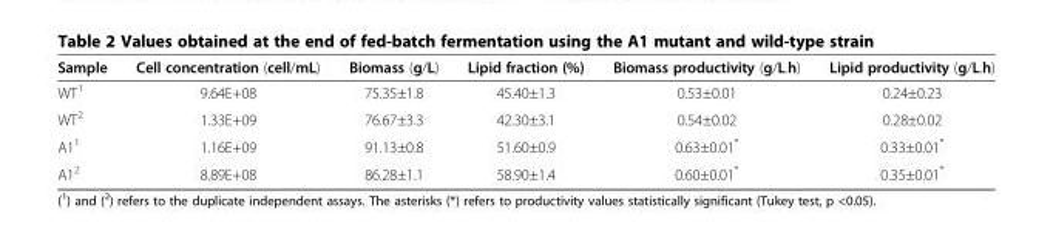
<table><thead><tr><td>Sample</td><td>Cell concentration (cell/mL)</td><td>Biomass (g/L)</td><td>Lipid fraction (%)</td><td>Biomass productivity (g/L.h)</td><td>Lipid productivity (g/L.h)</td></tr></thead><tbody><tr><td>WT<sup>1</sup></td><td>9.64E+08</td><td>75.35±1.8</td><td>45.40±1.3</td><td>0.53±0.01</td><td>0.24±0.23</td></tr><tr><td>WT<sup>2</sup></td><td>1.33E+09</td><td>76.67±3.3</td><td>42.30±3.1</td><td>0.54±0.02</td><td>0.28±0.02</td></tr><tr><td>A1<sup>1</sup></td><td>1.16E+09</td><td>91.13±0.8</td><td>51.60±0.9</td><td>0.63±0.01*</td><td>0.33±0.01*</td></tr><tr><td>A1<sup>2</sup></td><td>8.89E+08</td><td>86.28±1.1</td><td>58.90±1.4</td><td>0.60±0.01*</td><td>0.35±0.01*</td></tr></tbody></table>